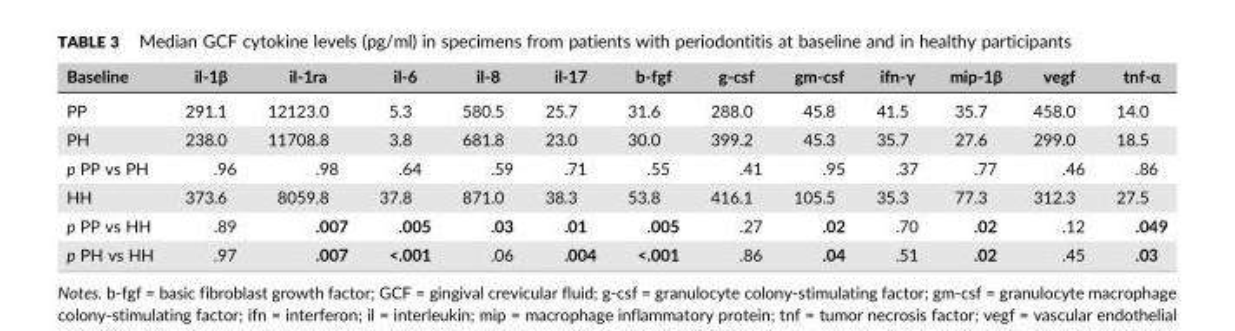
<table><thead><tr><td>Baseline</td><td>il‐1β</td><td>il‐1ra</td><td>il‐6</td><td>il‐8</td><td>il‐17</td><td>b‐fgf</td><td>g‐csf</td><td>gm‐csf</td><td>ifn‐γ</td><td>mip‐1β</td><td>vegf</td><td>tnf‐α</td></tr></thead><tbody><tr><td>PP</td><td>291.1</td><td>12123.0</td><td>5.3</td><td>580.5</td><td>25.7</td><td>31.6</td><td>288.0</td><td>45.8</td><td>41.5</td><td>35.7</td><td>458.0</td><td>14.0</td></tr><tr><td>PH</td><td>238.0</td><td>11708.8</td><td>3.8</td><td>681.8</td><td>23.0</td><td>30.0</td><td>399.2</td><td>45.3</td><td>35.7</td><td>27.6</td><td>299.0</td><td>18.5</td></tr><tr><td>p PP vs PH</td><td>.96</td><td>.98</td><td>.64</td><td>.59</td><td>.71</td><td>.55</td><td>.41</td><td>.95</td><td>.37</td><td>.77</td><td>.46</td><td>.86</td></tr><tr><td>HH</td><td>373.6</td><td>8059.8</td><td>37.8</td><td>871.0</td><td>38.3</td><td>53.8</td><td>416.1</td><td>105.5</td><td>35.3</td><td>77.3</td><td>312.3</td><td>27.5</td></tr><tr><td>p PP vs HH</td><td>.89</td><td>.007</td><td>.005</td><td>.03</td><td>.01</td><td>.005</td><td>.27</td><td>.02</td><td>.70</td><td>.02</td><td>.12</td><td>.049</td></tr><tr><td>p PH vs HH</td><td>.97</td><td>.007</td><td>&lt;.001</td><td>.06</td><td>.004</td><td>&lt;.001</td><td>.86</td><td>.04</td><td>.51</td><td>.02</td><td>.45</td><td>.03</td></tr></tbody></table>